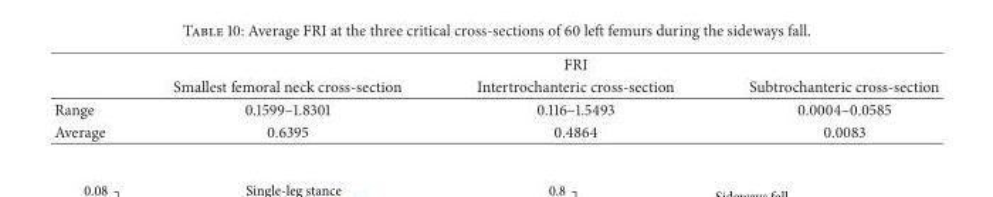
<table><thead><tr><td rowspan="2"></td><td rowspan="2">Smallest femoral neck cross-section</td><td rowspan="2">FRI Intertrochanteric cross-section</td><td rowspan="2">Subtrochanteric cross-section</td></tr><tr></tr></thead><tbody><tr><td>Range</td><td>0.1599–1.8301</td><td>0.116–1.5493</td><td>0.0004–0.0585</td></tr><tr><td>Average</td><td>0.6395</td><td>0.4864</td><td>0.0083</td></tr></tbody></table>